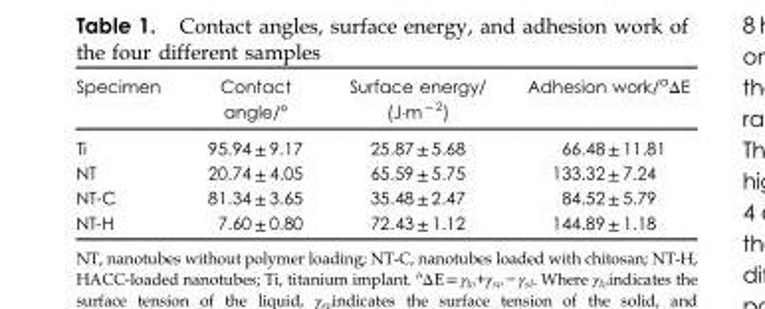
<table><thead><tr><td>Specimen</td><td>Contact angle/°</td><td>Surface energy/ (J·m <sup>− 2</sup>)</td><td>Adhesion work/aΔE</td></tr></thead><tbody><tr><td>Ti</td><td>95.94 ± 9.17</td><td>25.87 ± 5.68</td><td>66.48 ± 11.81</td></tr><tr><td>NT</td><td>20.74 ± 4.05</td><td>65.59 ± 5.75</td><td>133.32 ± 7.24</td></tr><tr><td>NT-C</td><td>81.34 ± 3.65</td><td>35.48 ± 2.47</td><td>84.52 ± 5.79</td></tr><tr><td>NT-H</td><td>7.60 ± 0.80</td><td>72.43 ± 1.12</td><td>144.89 ± 1.18</td></tr></tbody></table>